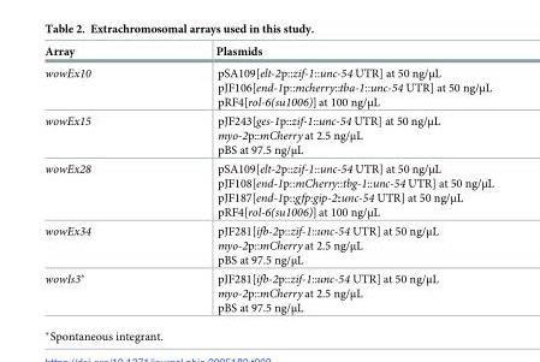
<table><thead><tr><td>Array</td><td>Plasmids</td></tr></thead><tbody><tr><td>wowEx10</td><td>pSA109[elt-2p::zif-1::unc-54 UTR] at 50 ng/μL pJF106[end-1p::mcherry::tba-1::unc-54 UTR] at 50 ng/μL pRF4[rol-6(su1006)] at 100 ng/μL</td></tr><tr><td>wowEx15</td><td>pJF243[ges-1p::zif-1::unc-54 UTR] at 50 ng/μL myo-2p::mCherry at 2.5 ng/μL pBS at 97.5 ng/μL</td></tr><tr><td>wowEx28</td><td>pSA109[elt-2p::zif-1::unc-54 UTR] at 50 ng/μL pJF108[end-1p::mCherry::tbg-1::unc-54 UTR] at 50 ng/μL pJF187[end-1p::gfp:gip-2::unc-54 UTR] at 50 ng/μL pRF4[rol-6(su1006)] at 100 ng/μL</td></tr><tr><td>wowEx34</td><td>pJF281[ifb-2p::zif-1::unc-54 UTR] at 50 ng/μL myo-2p::mCherry at 2.5 ng/μL pBS at 97.5 ng/μL</td></tr><tr><td>wowIs3*</td><td>pJF281[ifb-2p::zif-1::unc-54 UTR] at 50 ng/μL myo-2p::mCherry at 2.5 ng/μL pBS at 97.5 ng/μL</td></tr></tbody></table>